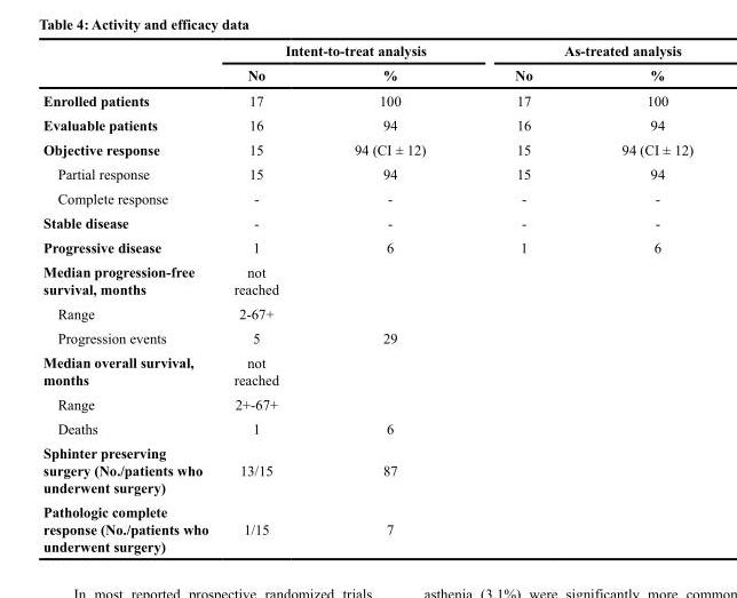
<table><thead><tr><td rowspan="2"></td><td colspan="2">Intent-to-treat analysis</td><td colspan="2">As-treated analysis</td></tr><tr><td>No</td><td>%</td><td>No</td><td>%</td></tr></thead><tbody><tr><td>Enrolled patients</td><td>17</td><td>100</td><td>17</td><td>100</td></tr><tr><td>Evaluable patients</td><td>16</td><td>94</td><td>16</td><td>94</td></tr><tr><td>Objective response</td><td>15</td><td>94 (CI ± 12)</td><td>15</td><td>94 (CI ± 12)</td></tr><tr><td>Partial response</td><td>15</td><td>94</td><td>15</td><td>94</td></tr><tr><td>Complete response</td><td>-</td><td>-</td><td>-</td><td>-</td></tr><tr><td>Stable disease</td><td>-</td><td>-</td><td>-</td><td>-</td></tr><tr><td>Progressive disease</td><td>1</td><td>6</td><td>1</td><td>6</td></tr><tr><td>Median progression-free survival, months</td><td>not reached</td><td></td><td></td><td></td></tr><tr><td>Range</td><td>2-67+</td><td></td><td></td><td></td></tr><tr><td>Progression events</td><td>5</td><td>29</td><td></td><td></td></tr><tr><td>Median overall survival, months</td><td>not reached</td><td></td><td></td><td></td></tr><tr><td>Range</td><td>2+-67+</td><td></td><td></td><td></td></tr><tr><td>Deaths</td><td>1</td><td>6</td><td></td><td></td></tr><tr><td>Sphinter preserving surgery (No./patients who underwent surgery)</td><td>13/15</td><td>87</td><td></td><td></td></tr><tr><td>Pathologic complete response (No./patients who underwent surgery)</td><td>1/15</td><td>7</td><td></td><td></td></tr></tbody></table>